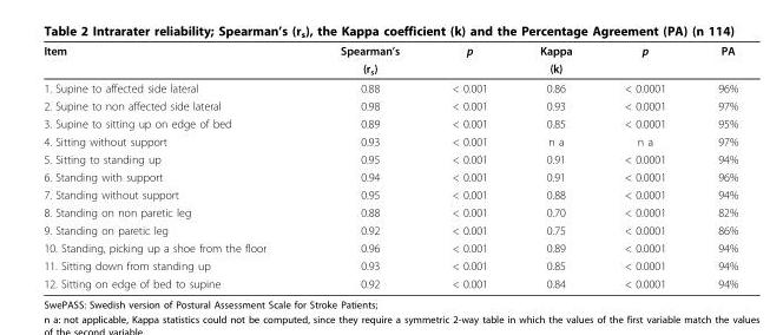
<table><thead><tr><td rowspan="2">Item</td><td rowspan="2">Spearman’s (r<sub>s</sub>)</td><td rowspan="2">p</td><td rowspan="2">Kappa (k)</td><td rowspan="2">p</td><td rowspan="2">PA</td></tr><tr></tr></thead><tbody><tr><td>1. Supine to affected side lateral</td><td>0.88</td><td>&lt; 0.001</td><td>0.86</td><td>&lt; 0.0001</td><td>96%</td></tr><tr><td>2. Supine to non affected side lateral</td><td>0.98</td><td>&lt; 0.001</td><td>0.93</td><td>&lt; 0.0001</td><td>97%</td></tr><tr><td>3. Supine to sitting up on edge of bed</td><td>0.89</td><td>&lt; 0.001</td><td>0.85</td><td>&lt; 0.0001</td><td>95%</td></tr><tr><td>4. Sitting without support</td><td>0.93</td><td>&lt; 0.001</td><td>n a</td><td>n a</td><td>97%</td></tr><tr><td>5. Sitting to standing up</td><td>0.95</td><td>&lt; 0.001</td><td>0.91</td><td>&lt; 0.0001</td><td>94%</td></tr><tr><td>6. Standing with support</td><td>0.94</td><td>&lt; 0.001</td><td>0.91</td><td>&lt; 0.0001</td><td>96%</td></tr><tr><td>7. Standing without support</td><td>0.95</td><td>&lt; 0.001</td><td>0.88</td><td>&lt; 0.0001</td><td>94%</td></tr><tr><td>8. Standing on non paretic leg</td><td>0.88</td><td>&lt; 0.001</td><td>0.70</td><td>&lt; 0.0001</td><td>82%</td></tr><tr><td>9. Standing on paretic leg</td><td>0.92</td><td>&lt; 0.001</td><td>0.75</td><td>&lt; 0.0001</td><td>86%</td></tr><tr><td>10. Standing, picking up a shoe from the floor</td><td>0.96</td><td>&lt; 0.001</td><td>0.89</td><td>&lt; 0.0001</td><td>94%</td></tr><tr><td>11. Sitting down from standing up</td><td>0.93</td><td>&lt; 0.001</td><td>0.85</td><td>&lt; 0.0001</td><td>94%</td></tr><tr><td>12. Sitting on edge of bed to supine</td><td>0.92</td><td>&lt; 0.001</td><td>0.84</td><td>&lt; 0.0001</td><td>94%</td></tr></tbody></table>